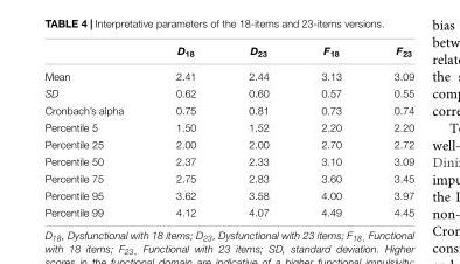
<table><thead><tr><td></td><td>D<sub>18</sub></td><td>D<sub>23</sub></td><td>F<sub>18</sub></td><td>F<sub>23</sub></td></tr></thead><tbody><tr><td>Mean</td><td>2.41</td><td>2.44</td><td>3.13</td><td>3.09</td></tr><tr><td>SD</td><td>0.62</td><td>0.60</td><td>0.57</td><td>0.55</td></tr><tr><td>Cronbach’s alpha</td><td>0.75</td><td>0.81</td><td>0.73</td><td>0.74</td></tr><tr><td>Percentile 5</td><td>1.50</td><td>1.52</td><td>2.20</td><td>2.20</td></tr><tr><td>Percentile 25</td><td>2.00</td><td>2.00</td><td>2.70</td><td>2.72</td></tr><tr><td>Percentile 50</td><td>2.37</td><td>2.33</td><td>3.10</td><td>3.09</td></tr><tr><td>Percentile 75</td><td>2.75</td><td>2.83</td><td>3.60</td><td>3.45</td></tr><tr><td>Percentile 95</td><td>3.62</td><td>3.58</td><td>4.00</td><td>3.97</td></tr><tr><td>Percentile 99</td><td>4.12</td><td>4.07</td><td>4.49</td><td>4.45</td></tr></tbody></table>